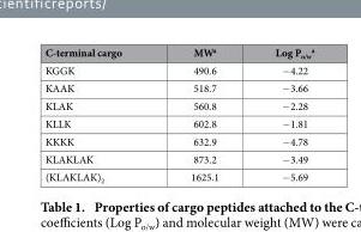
<table><thead><tr><td>C-terminal cargo</td><td>MW<sup>a</sup></td><td>Log P<sub>o/w</sub> <sup>a</sup></td></tr></thead><tbody><tr><td>KGGK</td><td>490.6</td><td>− 4.22</td></tr><tr><td>KAAK</td><td>518.7</td><td>− 3.66</td></tr><tr><td>KLAK</td><td>560.8</td><td>− 2.28</td></tr><tr><td>KLLK</td><td>602.8</td><td>− 1.81</td></tr><tr><td>KKKK</td><td>632.9</td><td>− 4.78</td></tr><tr><td>KLAKLAK</td><td>873.2</td><td>− 3.49</td></tr><tr><td>(KLAKLAK)<sub>2</sub></td><td>1625.1</td><td>− 5.69</td></tr></tbody></table>